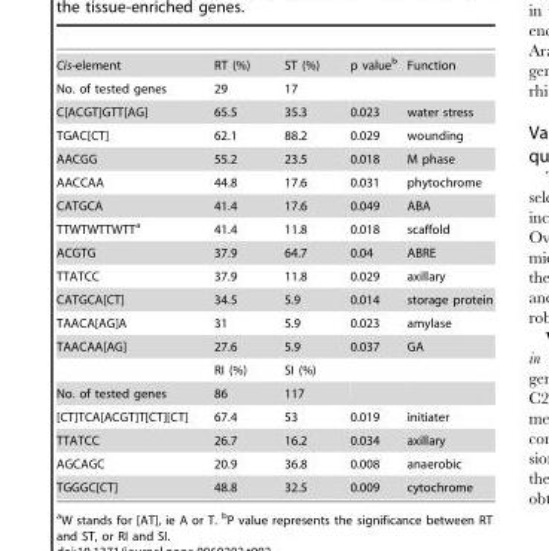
<table><tbody><tr><td>Cis-element</td><td>RT (%)</td><td>ST (%)</td><td>p value<sup>b</sup></td><td>Function</td></tr><tr><td>No. of tested genes</td><td>29</td><td>17</td><td></td><td></td></tr><tr><td>C[ACGT]GTT[AG]</td><td>65.5</td><td>35.3</td><td>0.023</td><td>water stress</td></tr><tr><td>TGAC[CT]</td><td>62.1</td><td>88.2</td><td>0.029</td><td>wounding</td></tr><tr><td>AACGG</td><td>55.2</td><td>23.5</td><td>0.018</td><td>M phase</td></tr><tr><td>AACCAA</td><td>44.8</td><td>17.6</td><td>0.031</td><td>phytochrome</td></tr><tr><td>CATGCA</td><td>41.4</td><td>17.6</td><td>0.049</td><td>ABA</td></tr><tr><td>TTWTWTTWTT<sup>a</sup></td><td>41.4</td><td>11.8</td><td>0.018</td><td>scaffold</td></tr><tr><td>ACGTG</td><td>37.9</td><td>64.7</td><td>0.04</td><td>ABRE</td></tr><tr><td>TTATCC</td><td>37.9</td><td>11.8</td><td>0.029</td><td>axillary</td></tr><tr><td>CATGCA[CT]</td><td>34.5</td><td>5.9</td><td>0.014</td><td>storage protein</td></tr><tr><td>TAACA[AG]A</td><td>31</td><td>5.9</td><td>0.023</td><td>amylase</td></tr><tr><td rowspan="2">TAACAA[AG]</td><td>27.6</td><td>5.9</td><td>0.037</td><td>GA</td></tr><tr><td>RI (%)</td><td>SI (%)</td><td></td><td></td></tr><tr><td>No. of tested genes</td><td>86</td><td>117</td><td></td><td></td></tr><tr><td>[CT]TCA[ACGT]T[CT][CT]</td><td>67.4</td><td>53</td><td>0.019</td><td>initiater</td></tr><tr><td>TTATCC</td><td>26.7</td><td>16.2</td><td>0.034</td><td>axillary</td></tr><tr><td>AGCAGC</td><td>20.9</td><td>36.8</td><td>0.008</td><td>anaerobic</td></tr><tr><td>TGGGC[CT]</td><td>48.8</td><td>32.5</td><td>0.009</td><td>cytochrome</td></tr></tbody></table>